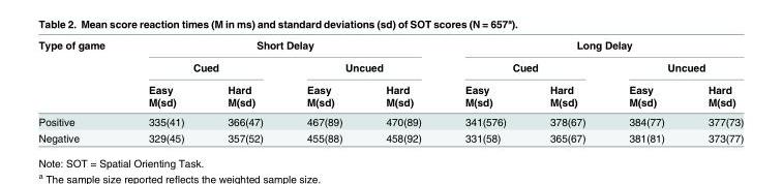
<table><thead><tr><td rowspan="4">Type of game</td><td colspan="4">Short Delay</td><td colspan="4">Long Delay</td></tr><tr><td colspan="2">Cued</td><td colspan="2">Uncued</td><td colspan="2">Cued</td><td colspan="2">Uncued</td></tr><tr><td rowspan="2">Easy M(sd)</td><td rowspan="2">Hard M(sd)</td><td rowspan="2">Easy M(sd)</td><td rowspan="2">Hard M(sd)</td><td rowspan="2">Easy M(sd)</td><td rowspan="2">Hard M(sd)</td><td rowspan="2">Easy M(sd)</td><td rowspan="2">Hard M(sd)</td></tr><tr></tr></thead><tbody><tr><td>Positive</td><td>335(41)</td><td>366(47)</td><td>467(89)</td><td>470(89)</td><td>341(576)</td><td>378(67)</td><td>384(77)</td><td>377(73)</td></tr><tr><td>Negative</td><td>329(45)</td><td>357(52)</td><td>455(88)</td><td>458(92)</td><td>331(58)</td><td>365(67)</td><td>381(81)</td><td>373(77)</td></tr></tbody></table>